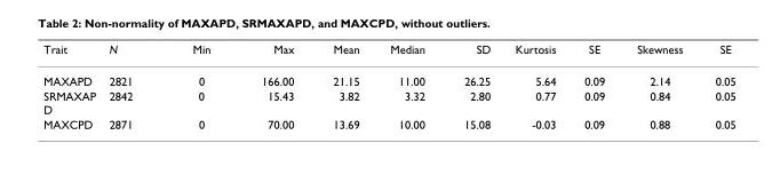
<table><thead><tr><td>Trait</td><td>N</td><td>Min</td><td>Max</td><td>Mean</td><td>Median</td><td>SD</td><td>Kurtosis</td><td>SE</td><td>Skewness</td><td>SE</td></tr></thead><tbody><tr><td>MAXAPD</td><td>2821</td><td>0</td><td>166.00</td><td>21.15</td><td>11.00</td><td>26.25</td><td>5.64</td><td>0.09</td><td>2.14</td><td>0.05</td></tr><tr><td>SRMAXAP D</td><td>2842</td><td>0</td><td>15.43</td><td>3.82</td><td>3.32</td><td>2.80</td><td>0.77</td><td>0.09</td><td>0.84</td><td>0.05</td></tr><tr><td>MAXCPD</td><td>2871</td><td>0</td><td>70.00</td><td>13.69</td><td>10.00</td><td>15.08</td><td>-0.03</td><td>0.09</td><td>0.88</td><td>0.05</td></tr></tbody></table>